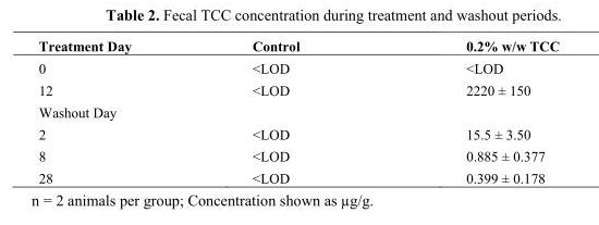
<table><thead><tr><td>Treatment Day</td><td>Control</td><td>0.2% w/w TCC</td></tr></thead><tbody><tr><td>0</td><td>&lt;LOD</td><td>&lt;LOD</td></tr><tr><td>12</td><td>&lt;LOD</td><td>2220 ± 150</td></tr><tr><td colspan="3">Washout Day</td></tr><tr><td>2</td><td>&lt;LOD</td><td>15.5 ± 3.50</td></tr><tr><td>8</td><td>&lt;LOD</td><td>0.885 ± 0.377</td></tr><tr><td>28</td><td>&lt;LOD</td><td>0.399 ± 0.178</td></tr></tbody></table>